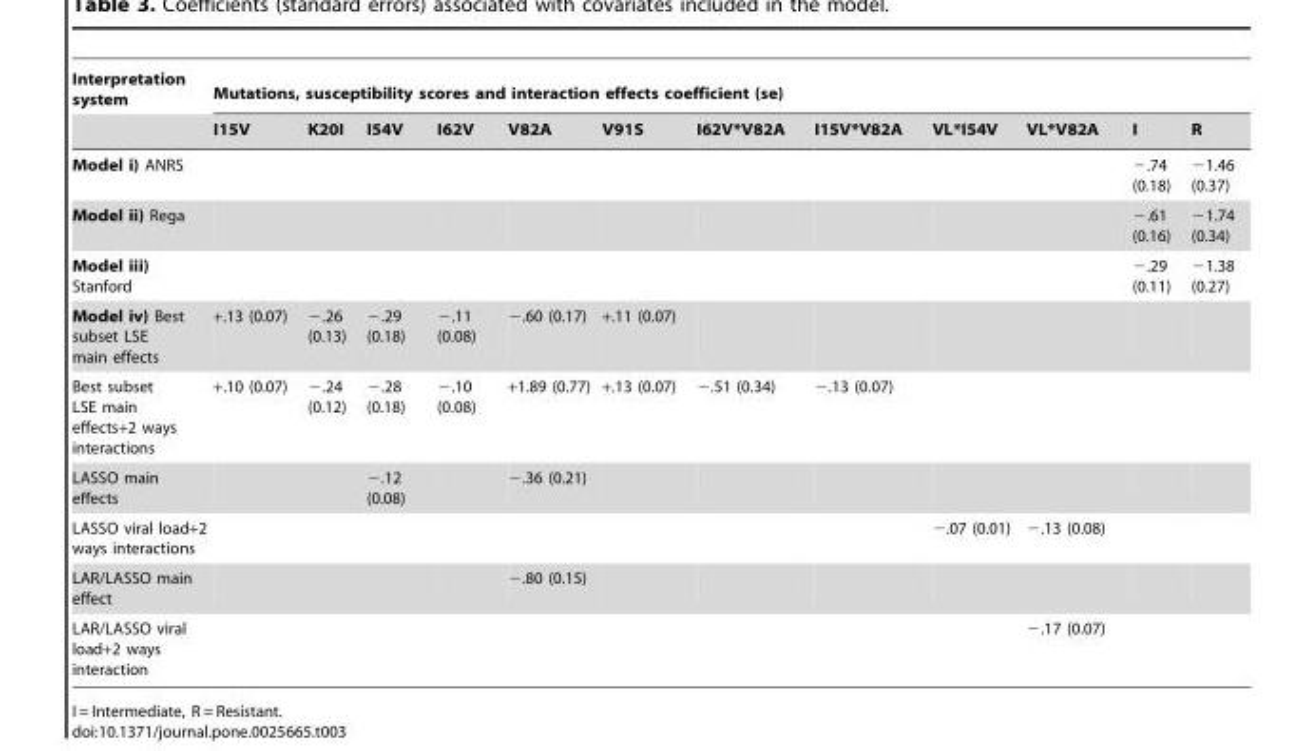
<table><thead><tr><td rowspan="2">Interpretation system</td><td colspan="12">Mutations, susceptibility scores and interaction effects coefficient (se)</td></tr><tr><td>I15V</td><td>K20I</td><td>I54V</td><td>I62V</td><td>V82A</td><td>V91S</td><td>I62V*V82A</td><td>I15V*V82A</td><td>VL*I54V</td><td>VL*V82A</td><td>I</td><td>R</td></tr></thead><tbody><tr><td>Model i) ANRS</td><td></td><td></td><td></td><td></td><td></td><td></td><td></td><td></td><td></td><td></td><td>−.74 (0.18)</td><td>−1.46 (0.37)</td></tr><tr><td>Model ii) Rega</td><td></td><td></td><td></td><td></td><td></td><td></td><td></td><td></td><td></td><td></td><td>−.61 (0.16)</td><td>−1.74 (0.34)</td></tr><tr><td>Model iii) Stanford</td><td></td><td></td><td></td><td></td><td></td><td></td><td></td><td></td><td></td><td></td><td>−.29 (0.11)</td><td>−1.38 (0.27)</td></tr><tr><td>Model iv) Best subset LSE main effects</td><td>+.13 (0.07)</td><td>−.26 (0.13)</td><td>−.29 (0.18)</td><td>−.11 (0.08)</td><td>−.60 (0.17)</td><td>+.11 (0.07)</td><td></td><td></td><td></td><td></td><td></td><td></td></tr><tr><td>Best subset LSE main effects+2 ways interactions</td><td>+.10 (0.07)</td><td>−.24 (0.12)</td><td>−.28 (0.18)</td><td>−.10 (0.08)</td><td>+1.89 (0.77)</td><td>+.13 (0.07)</td><td>−.51 (0.34)</td><td>−.13 (0.07)</td><td></td><td></td><td></td><td></td></tr><tr><td>LASSO main effects</td><td></td><td></td><td>−.12 (0.08)</td><td></td><td>−.36 (0.21)</td><td></td><td></td><td></td><td></td><td></td><td></td><td></td></tr><tr><td>LASSO viral load+2 ways interactions</td><td></td><td></td><td></td><td></td><td></td><td></td><td></td><td></td><td>−.07 (0.01)</td><td>−.13 (0.08)</td><td></td><td></td></tr><tr><td>LAR/LASSO main effect</td><td></td><td></td><td></td><td></td><td>−.80 (0.15)</td><td></td><td></td><td></td><td></td><td></td><td></td><td></td></tr><tr><td>LAR/LASSO viral load+2 ways interaction</td><td></td><td></td><td></td><td></td><td></td><td></td><td></td><td></td><td></td><td>−.17 (0.07)</td><td></td><td></td></tr></tbody></table>